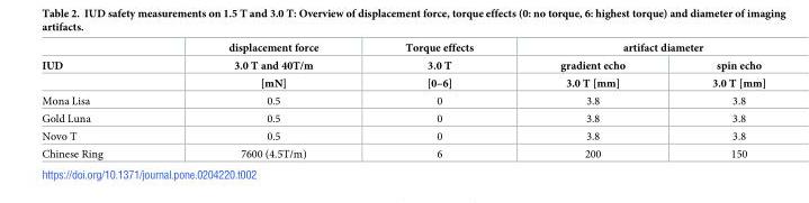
<table><thead><tr><td rowspan="3">IUD</td><td rowspan="3">displacement force 3.0 T and 40T/m [mN]</td><td rowspan="3">Torque effects 3.0 T [0–6]</td><td colspan="2">artifact diameter</td></tr><tr><td rowspan="2">gradient echo 3.0 T [mm]</td><td rowspan="2">spin echo 3.0 T [mm]</td></tr><tr></tr></thead><tbody><tr><td>Mona Lisa</td><td>0.5</td><td>0</td><td>3.8</td><td>3.8</td></tr><tr><td>Gold Luna</td><td>0.5</td><td>0</td><td>3.8</td><td>3.8</td></tr><tr><td>Novo T</td><td>0.5</td><td>0</td><td>3.8</td><td>3.8</td></tr><tr><td>Chinese Ring</td><td>7600 (4.5T/m)</td><td>6</td><td>200</td><td>150</td></tr></tbody></table>